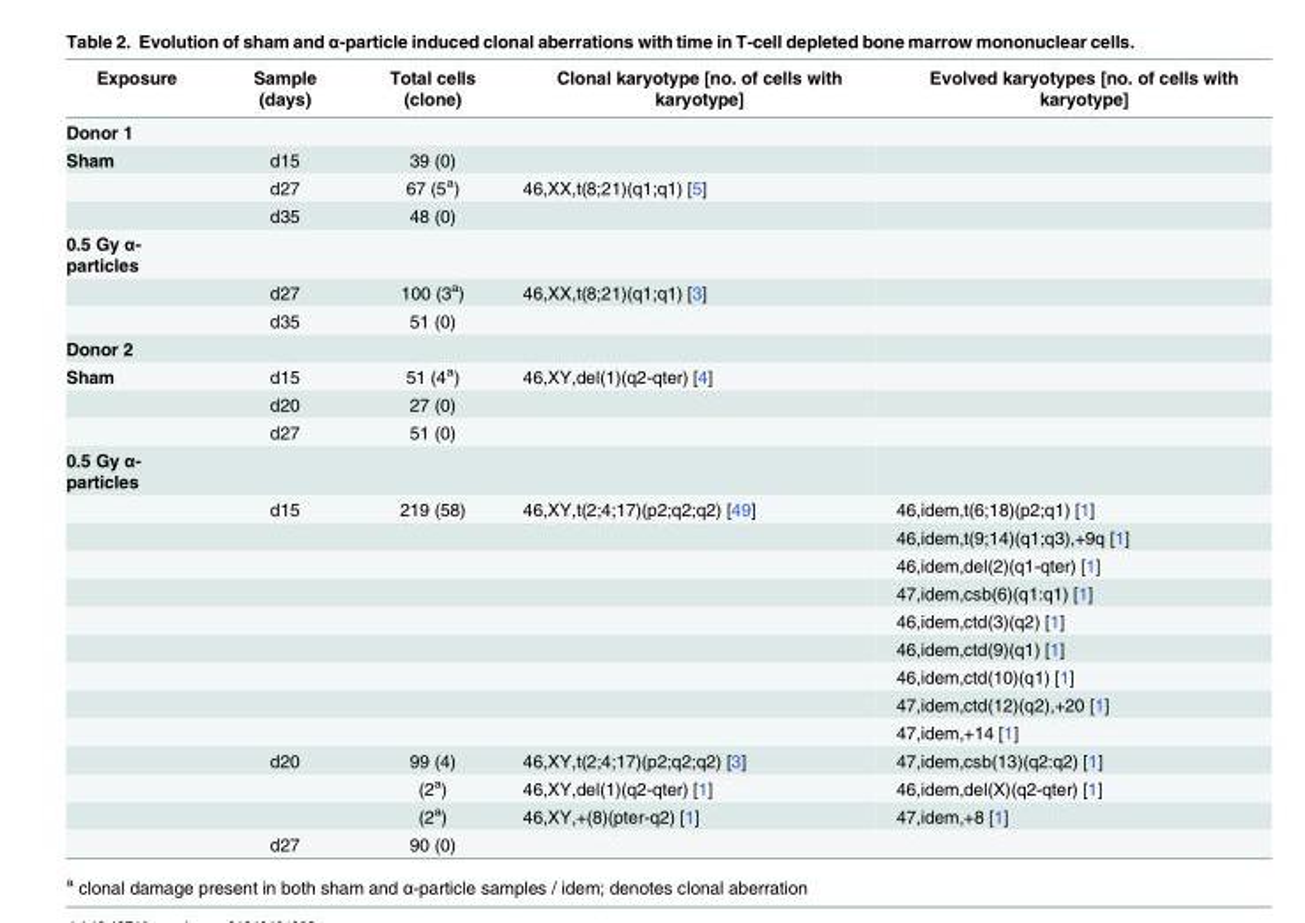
<table><thead><tr><td>Exposure</td><td>Sample (days)</td><td>Total cells (clone)</td><td>Clonal karyotype [no. of cells with karyotype]</td><td>Evolved karyotypes [no. of cells with karyotype]</td></tr></thead><tbody><tr><td colspan="5">Donor 1</td></tr><tr><td rowspan="3">Sham</td><td>d15</td><td>39 (0)</td><td></td><td></td></tr><tr><td>d27</td><td>67 (5<sup>a</sup>)</td><td>46,XX,t(8;21)(q1;q1) [5]</td><td></td></tr><tr><td>d35</td><td>48 (0)</td><td></td><td></td></tr><tr><td colspan="5">0.5 Gy α- particles</td></tr><tr><td></td><td>d27</td><td>100 (3<sup>a</sup>)</td><td>46,XX,t(8;21)(q1;q1) [3]</td><td></td></tr><tr><td></td><td>d35</td><td>51 (0)</td><td></td><td></td></tr><tr><td colspan="5">Donor 2</td></tr><tr><td rowspan="3">Sham</td><td>d15</td><td>51 (4<sup>a</sup>)</td><td>46,XY,del(1)(q2-qter) [4]</td><td></td></tr><tr><td>d20</td><td>27 (0)</td><td></td><td></td></tr><tr><td>d27</td><td>51 (0)</td><td></td><td></td></tr><tr><td colspan="5">0.5 Gy α- particles</td></tr><tr><td></td><td>d15</td><td>219 (58)</td><td>46,XY,t(2;4;17)(p2;q2;q2) [49]</td><td>46,idem,t(6;18)(p2;q1) [1]</td></tr><tr><td></td><td></td><td></td><td></td><td>46,idem,t(9;14)(q1;q3),+9q [1]</td></tr><tr><td></td><td></td><td></td><td></td><td>46,idem,del(2)(q1-qter) [1]</td></tr><tr><td></td><td></td><td></td><td></td><td>47,idem,csb(6)(q1:q1) [1]</td></tr><tr><td></td><td></td><td></td><td></td><td>46,idem,ctd(3)(q2) [1]</td></tr><tr><td></td><td></td><td></td><td></td><td>46,idem,ctd(9)(q1) [1]</td></tr><tr><td></td><td></td><td></td><td></td><td>46,idem,ctd(10)(q1) [1]</td></tr><tr><td></td><td></td><td></td><td></td><td>47,idem,ctd(12)(q2),+20 [1]</td></tr><tr><td></td><td></td><td></td><td></td><td>47,idem,+14 [1]</td></tr><tr><td></td><td>d20</td><td>99 (4)</td><td>46,XY,t(2;4;17)(p2;q2;q2) [3]</td><td>47,idem,csb(13)(q2:q2) [1]</td></tr><tr><td></td><td></td><td>(2<sup>a</sup>)</td><td>46,XY,del(1)(q2-qter) [1]</td><td>46,idem,del(X)(q2-qter) [1]</td></tr><tr><td></td><td></td><td>(2<sup>a</sup>)</td><td>46,XY,+(8)(pter-q2) [1]</td><td>47,idem,+8 [1]</td></tr><tr><td></td><td>d27</td><td>90 (0)</td><td></td><td></td></tr></tbody></table>